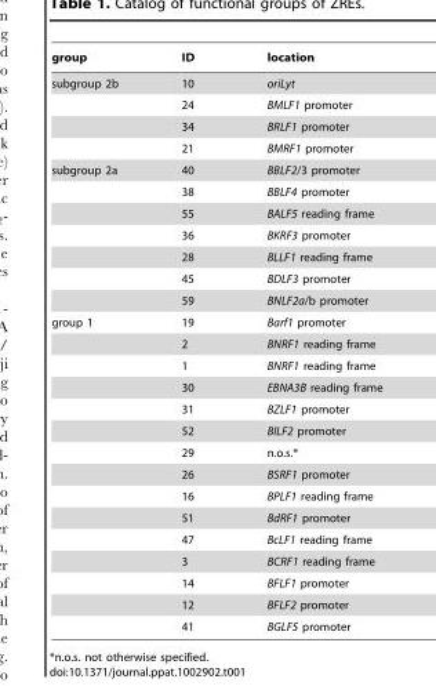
<table><thead><tr><td>group</td><td>ID</td><td>location</td></tr></thead><tbody><tr><td rowspan="4">subgroup 2b</td><td>10</td><td>oriLyt</td></tr><tr><td>24</td><td>BMLF1 promoter</td></tr><tr><td>34</td><td>BRLF1 promoter</td></tr><tr><td>21</td><td>BMRF1 promoter</td></tr><tr><td rowspan="7">subgroup 2a</td><td>40</td><td>BBLF2/3 promoter</td></tr><tr><td>38</td><td>BBLF4 promoter</td></tr><tr><td>55</td><td>BALF5 reading frame</td></tr><tr><td>36</td><td>BKRF3 promoter</td></tr><tr><td>28</td><td>BLLF1 reading frame</td></tr><tr><td>45</td><td>BDLF3 promoter</td></tr><tr><td>59</td><td>BNLF2a/b promoter</td></tr><tr><td rowspan="15">group 1</td><td>19</td><td>Barf1 promoter</td></tr><tr><td>2</td><td>BNRF1 reading frame</td></tr><tr><td>1</td><td>BNRF1 reading frame</td></tr><tr><td>30</td><td>EBNA3B reading frame</td></tr><tr><td>31</td><td>BZLF1 promoter</td></tr><tr><td>52</td><td>BILF2 promoter</td></tr><tr><td>29</td><td>n.o.s.*</td></tr><tr><td>26</td><td>BSRF1 promoter</td></tr><tr><td>16</td><td>BPLF1 reading frame</td></tr><tr><td>51</td><td>BdRF1 promoter</td></tr><tr><td>47</td><td>BcLF1 reading frame</td></tr><tr><td>3</td><td>BCRF1 reading frame</td></tr><tr><td>14</td><td>BFLF1 promoter</td></tr><tr><td>12</td><td>BFLF2 promoter</td></tr><tr><td>41</td><td>BGLF5 promoter</td></tr></tbody></table>